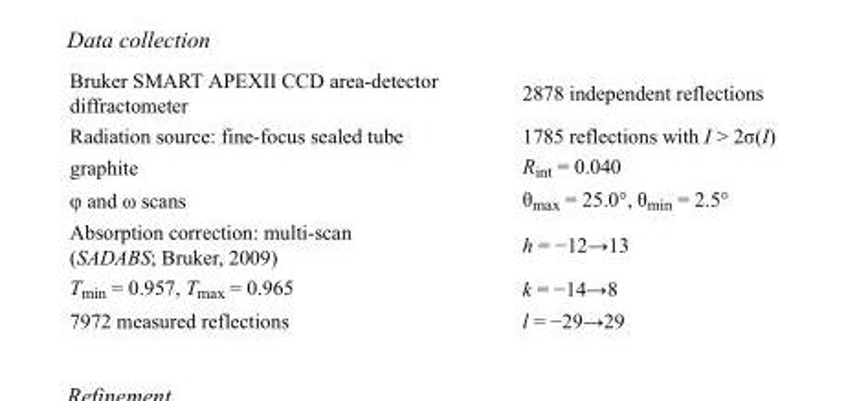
<table><tbody><tr><td>Bruker SMART APEXII CCD area-detector diffractometer</td><td>2878 independent reflections</td></tr><tr><td>Radiation source: fine-focus sealed tube</td><td>1785 reflections with I &gt; 2σ(I)</td></tr><tr><td>graphite</td><td>R<sub>int</sub> = 0.040</td></tr><tr><td>φ and ω scans</td><td>θ<sub>max</sub> = 25.0°, θ<sub>min</sub> = 2.5°</td></tr><tr><td>Absorption correction: multi-scan (SADABS; Bruker, 2009)</td><td>h = −12→13</td></tr><tr><td>T<sub>min</sub> = 0.957, T<sub>max</sub> = 0.965</td><td>k = −14→8</td></tr><tr><td>7972 measured reflections</td><td>l = −29→29</td></tr></tbody></table>